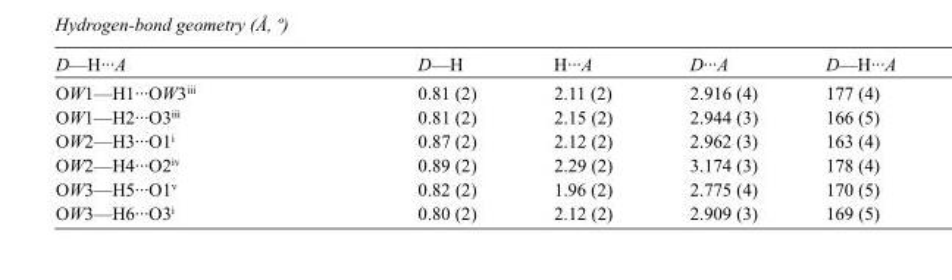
<table><tbody><tr><td>D—H···A</td><td>D—H</td><td>H···A</td><td>D···A</td><td>D—H···A</td></tr><tr><td>OW1—H1···OW3<sup>iii</sup></td><td>0.81 (2)</td><td>2.11 (2)</td><td>2.916 (4)</td><td>177 (4)</td></tr><tr><td>OW1—H2···O3<sup>iii</sup></td><td>0.81 (2)</td><td>2.15 (2)</td><td>2.944 (3)</td><td>166 (5)</td></tr><tr><td>OW2—H3···O1<sup>i</sup></td><td>0.87 (2)</td><td>2.12 (2)</td><td>2.962 (3)</td><td>163 (4)</td></tr><tr><td>OW2—H4···O2<sup>iv</sup></td><td>0.89 (2)</td><td>2.29 (2)</td><td>3.174 (3)</td><td>178 (4)</td></tr><tr><td>OW3—H5···O1<sup>v</sup></td><td>0.82 (2)</td><td>1.96 (2)</td><td>2.775 (4)</td><td>170 (5)</td></tr><tr><td>OW3—H6···O3<sup>i</sup></td><td>0.80 (2)</td><td>2.12 (2)</td><td>2.909 (3)</td><td>169 (5)</td></tr></tbody></table>